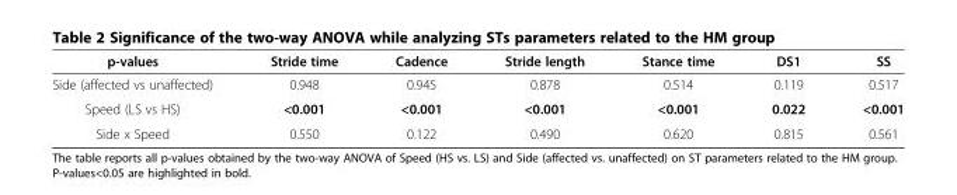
<table><thead><tr><td>p-values</td><td>Stride time</td><td>Cadence</td><td>Stride length</td><td>Stance time</td><td>DS1</td><td>SS</td></tr></thead><tbody><tr><td>Side (affected vs unaffected)</td><td>0.948</td><td>0.945</td><td>0.878</td><td>0.514</td><td>0.119</td><td>0.517</td></tr><tr><td>Speed (LS vs HS)</td><td>&lt;0.001</td><td>&lt;0.001</td><td>&lt;0.001</td><td>&lt;0.001</td><td>0.022</td><td>&lt;0.001</td></tr><tr><td>Side x Speed</td><td>0.550</td><td>0.122</td><td>0.490</td><td>0.620</td><td>0.815</td><td>0.561</td></tr></tbody></table>